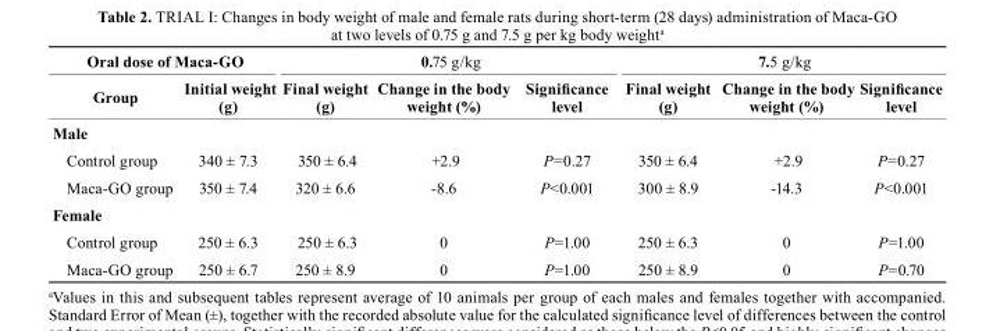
<table><thead><tr><td colspan="2">Oral dose of Maca-GO</td><td colspan="3">0.75 g/kg</td><td colspan="3">7.5 g/kg</td></tr><tr><td>Group</td><td>Initial weight (g)</td><td>Final weight (g)</td><td>change in the body weight (%)</td><td>Significance level</td><td>Final weight (g)</td><td>change in the body weight (%)</td><td>Significance level</td></tr></thead><tbody><tr><td colspan="8">Male</td></tr><tr><td>Control group</td><td>340 ± 7.3</td><td>350 ± 6.4</td><td>+2.9</td><td>P=0.27</td><td>350 ± 6.4</td><td>+2.9</td><td>P=0.27</td></tr><tr><td>Maca-GO group</td><td>350 ± 7.4</td><td>320 ± 6.6</td><td>-8.6</td><td>P&lt;0.001</td><td>300 ± 8.9</td><td>-14.3</td><td>P&lt;0.001</td></tr><tr><td colspan="8">Female</td></tr><tr><td>Control group</td><td>250 ± 6.3</td><td>250 ± 6.3</td><td>0</td><td>P=1.00</td><td>250 ± 6.3</td><td>0</td><td>P=1.00</td></tr><tr><td>Maca-GO group</td><td>250 ± 6.7</td><td>250 ± 8.9</td><td>0</td><td>P=1.00</td><td>250 ± 8.9</td><td>0</td><td>P=0.70</td></tr></tbody></table>